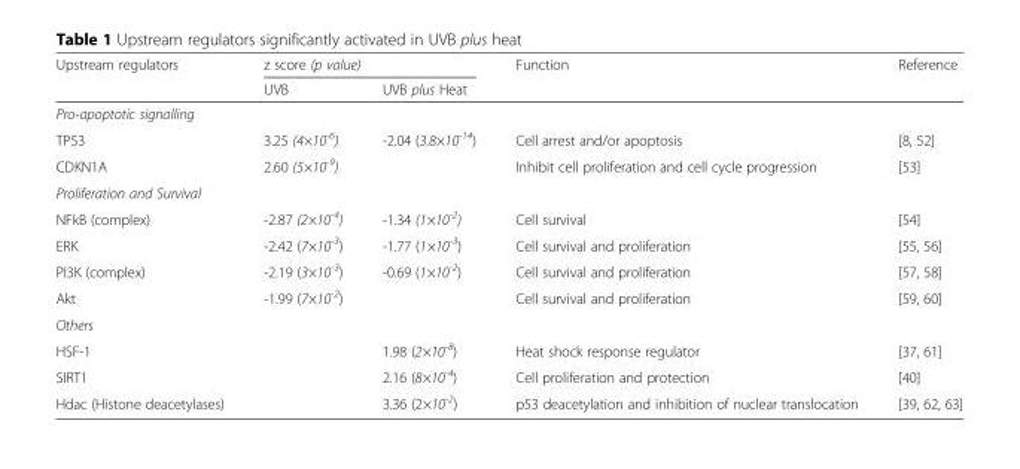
<table><thead><tr><td rowspan="2">Upstream regulators</td><td colspan="2">z score (p value)</td><td rowspan="2">Function</td><td rowspan="2">Reference</td></tr><tr><td>UVB</td><td>UVB plus Heat</td></tr></thead><tbody><tr><td colspan="5">Pro-apoptotic signalling</td></tr><tr><td>TP53</td><td>3.25 (4×10<sup>-6</sup>)</td><td>-2.04 (3.8×10<sup>-14</sup>)</td><td>Cell arrest and/or apoptosis</td><td>[8, 52]</td></tr><tr><td>CDKN1A</td><td>2.60 (5×10<sup>-9</sup>)</td><td></td><td>Inhibit cell proliferation and cell cycle progression</td><td>[53]</td></tr><tr><td colspan="5">Proliferation and Survival</td></tr><tr><td>NFkB (complex)</td><td>-2.87 (2×10<sup>-4</sup>)</td><td>-1.34 (1×10<sup>-2</sup>)</td><td>Cell survival</td><td>[54]</td></tr><tr><td>ERK</td><td>-2.42 (7×10<sup>-3</sup>)</td><td>-1.77 (1×10<sup>-3</sup>)</td><td>Cell survival and proliferation</td><td>[55, 56]</td></tr><tr><td>PI3K (complex)</td><td>-2.19 (3×10<sup>-3</sup>)</td><td>-0.69 (1×10<sup>-2</sup>)</td><td>Cell survival and proliferation</td><td>[57, 58]</td></tr><tr><td>Akt</td><td>-1.99 (7×10<sup>-2</sup>)</td><td></td><td>Cell survival and proliferation</td><td>[59, 60]</td></tr><tr><td colspan="5">Others</td></tr><tr><td>HSF-1</td><td></td><td>1.98 (2×10<sup>-8</sup>)</td><td>Heat shock response regulator</td><td>[37, 61]</td></tr><tr><td>SIRT1</td><td></td><td>2.16 (8×10<sup>-4</sup>)</td><td>Cell proliferation and protection</td><td>[40]</td></tr><tr><td>Hdac (Histone deacetylases)</td><td></td><td>3.36 (2×10<sup>-2</sup>)</td><td>p53 deacetylation and inhibition of nuclear translocation</td><td>[39, 62, 63]</td></tr></tbody></table>